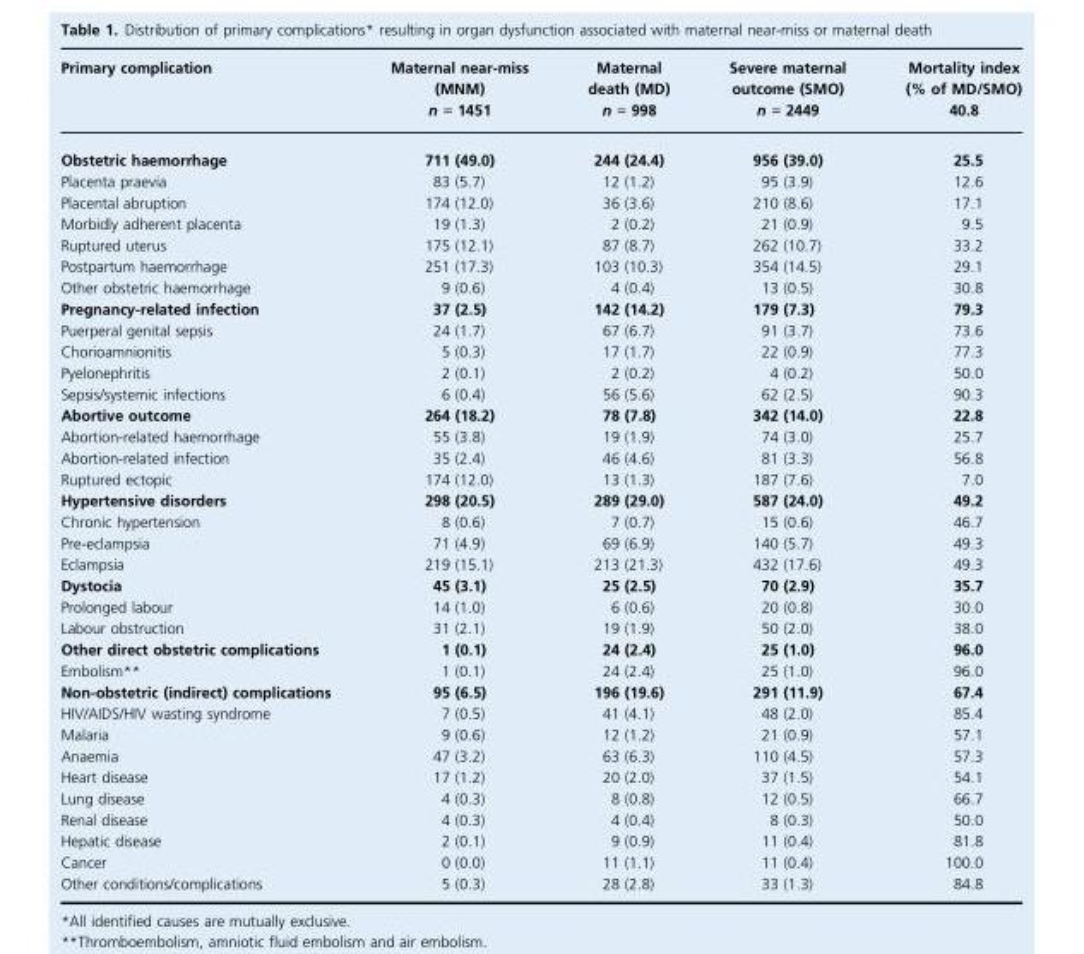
<table><thead><tr><td>Primary complication</td><td>Maternal near-miss (MNM) n = 1451</td><td>Maternal death (MD) n = 998</td><td>Severe maternal outcome (SMO) n = 2449</td><td>Mortality index (% of MD/SMO) 40.8</td></tr></thead><tbody><tr><td>Obstetric haemorrhage</td><td>711 (49.0)</td><td>244 (24.4)</td><td>956 (39.0)</td><td>25.5</td></tr><tr><td>Placenta praevia</td><td>83 (5.7)</td><td>12 (1.2)</td><td>95 (3.9)</td><td>12.6</td></tr><tr><td>Placental abruption</td><td>174 (12.0)</td><td>36 (3.6)</td><td>210 (8.6)</td><td>17.1</td></tr><tr><td>Morbidly adherent placenta</td><td>19 (1.3)</td><td>2 (0.2)</td><td>21 (0.9)</td><td>9.5</td></tr><tr><td>Ruptured uterus</td><td>175 (12.1)</td><td>87 (8.7)</td><td>262 (10.7)</td><td>33.2</td></tr><tr><td>Postpartum haemorrhage</td><td>251 (17.3)</td><td>103 (10.3)</td><td>354 (14.5)</td><td>29.1</td></tr><tr><td>Other obstetric haemorrhage</td><td>9 (0.6)</td><td>4 (0.4)</td><td>13 (0.5)</td><td>30.8</td></tr><tr><td>Pregnancy-related infection</td><td>37 (2.5)</td><td>142 (14.2)</td><td>179 (7.3)</td><td>79.3</td></tr><tr><td>Puerperal genital sepsis</td><td>24 (1.7)</td><td>67 (6.7)</td><td>91 (3.7)</td><td>73.6</td></tr><tr><td>Chorioamnionitis</td><td>5 (0.3)</td><td>17 (1.7)</td><td>22 (0.9)</td><td>77.3</td></tr><tr><td>Pyelonephritis</td><td>2 (0.1)</td><td>2 (0.2)</td><td>4 (0.2)</td><td>50.0</td></tr><tr><td>Sepsis/systemic infections</td><td>6 (0.4)</td><td>56 (5.6)</td><td>62 (2.5)</td><td>90.3</td></tr><tr><td>Abortive outcome</td><td>264 (18.2)</td><td>78 (7.8)</td><td>342 (14.0)</td><td>22.8</td></tr><tr><td>Abortion-related haemorrhage</td><td>55 (3.8)</td><td>19 (1.9)</td><td>74 (3.0)</td><td>25.7</td></tr><tr><td>Abortion-related infection</td><td>35 (2.4)</td><td>46 (4.6)</td><td>81 (3.3)</td><td>56.8</td></tr><tr><td>Ruptured ectopic</td><td>174 (12.0)</td><td>13 (1.3)</td><td>187 (7.6)</td><td>7.0</td></tr><tr><td>Hypertensive disorders</td><td>298 (20.5)</td><td>289 (29.0)</td><td>587 (24.0)</td><td>49.2</td></tr><tr><td>Chronic hypertension</td><td>8 (0.6)</td><td>7 (0.7)</td><td>15 (0.6)</td><td>46.7</td></tr><tr><td>Pre-eclampsia</td><td>71 (4.9)</td><td>69 (6.9)</td><td>140 (5.7)</td><td>49.3</td></tr><tr><td>Eclampsia</td><td>219 (15.1)</td><td>213 (21.3)</td><td>432 (17.6)</td><td>49.3</td></tr><tr><td>Dystocia</td><td>45 (3.1)</td><td>25 (2.5)</td><td>70 (2.9)</td><td>35.7</td></tr><tr><td>Prolonged labour</td><td>14 (1.0)</td><td>6 (0.6)</td><td>20 (0.8)</td><td>30.0</td></tr><tr><td>Labour obstruction</td><td>31 (2.1)</td><td>19 (1.9)</td><td>50 (2.0)</td><td>38.0</td></tr><tr><td>Other direct obstetric complications</td><td>1 (0.1)</td><td>24 (2.4)</td><td>25 (1.0)</td><td>96.0</td></tr><tr><td>Embolism**</td><td>1 (0.1)</td><td>24 (2.4)</td><td>25 (1.0)</td><td>96.0</td></tr><tr><td>Non-obstetric (indirect) complications</td><td>95 (6.5)</td><td>196 (19.6)</td><td>291 (11.9)</td><td>67.4</td></tr><tr><td>HIV/AIDS/HIV wasting syndrome</td><td>7 (0.5)</td><td>41 (4.1)</td><td>48 (2.0)</td><td>85.4</td></tr><tr><td>Malaria</td><td>9 (0.6)</td><td>12 (1.2)</td><td>21 (0.9)</td><td>57.1</td></tr><tr><td>Anaemia</td><td>47 (3.2)</td><td>63 (6.3)</td><td>110 (4.5)</td><td>57.3</td></tr><tr><td>Heart disease</td><td>17 (1.2)</td><td>20 (2.0)</td><td>37 (1.5)</td><td>54.1</td></tr><tr><td>Lung disease</td><td>4 (0.3)</td><td>8 (0.8)</td><td>12 (0.5)</td><td>66.7</td></tr><tr><td>Renal disease</td><td>4 (0.3)</td><td>4 (0.4)</td><td>8 (0.3)</td><td>50.0</td></tr><tr><td>Hepatic disease</td><td>2 (0.1)</td><td>9 (0.9)</td><td>11 (0.4)</td><td>81.8</td></tr><tr><td>Cancer</td><td>0 (0.0)</td><td>11 (1.1)</td><td>11 (0.4)</td><td>100.0</td></tr><tr><td>Other conditions/complications</td><td>5 (0.3)</td><td>28 (2.8)</td><td>33 (1.3)</td><td>84.8</td></tr></tbody></table>